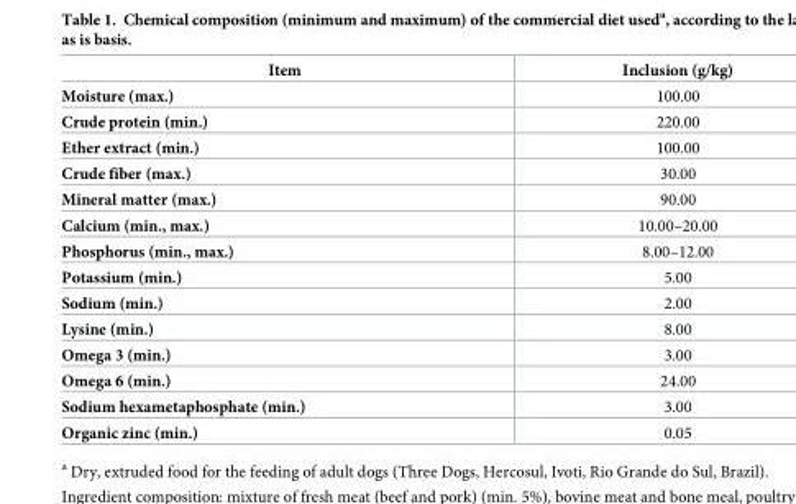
<table><thead><tr><td>Item</td><td>Inclusion (g/kg)</td></tr></thead><tbody><tr><td>Moisture (max.)</td><td>100.00</td></tr><tr><td>Crude protein (min.)</td><td>220.00</td></tr><tr><td>Ether extract (min.)</td><td>100.00</td></tr><tr><td>Crude fiber (max.)</td><td>30.00</td></tr><tr><td>Mineral matter (max.)</td><td>90.00</td></tr><tr><td>Calcium (min., max.)</td><td>10.00–20.00</td></tr><tr><td>Phosphorus (min., max.)</td><td>8.00–12.00</td></tr><tr><td>Potassium (min.)</td><td>5.00</td></tr><tr><td>Sodium (min.)</td><td>2.00</td></tr><tr><td>Lysine (min.)</td><td>8.00</td></tr><tr><td>Omega 3 (min.)</td><td>3.00</td></tr><tr><td>Omega 6 (min.)</td><td>24.00</td></tr><tr><td>Sodium hexametaphosphate (min.)</td><td>3.00</td></tr><tr><td>Organic zinc (min.)</td><td>0.05</td></tr></tbody></table>